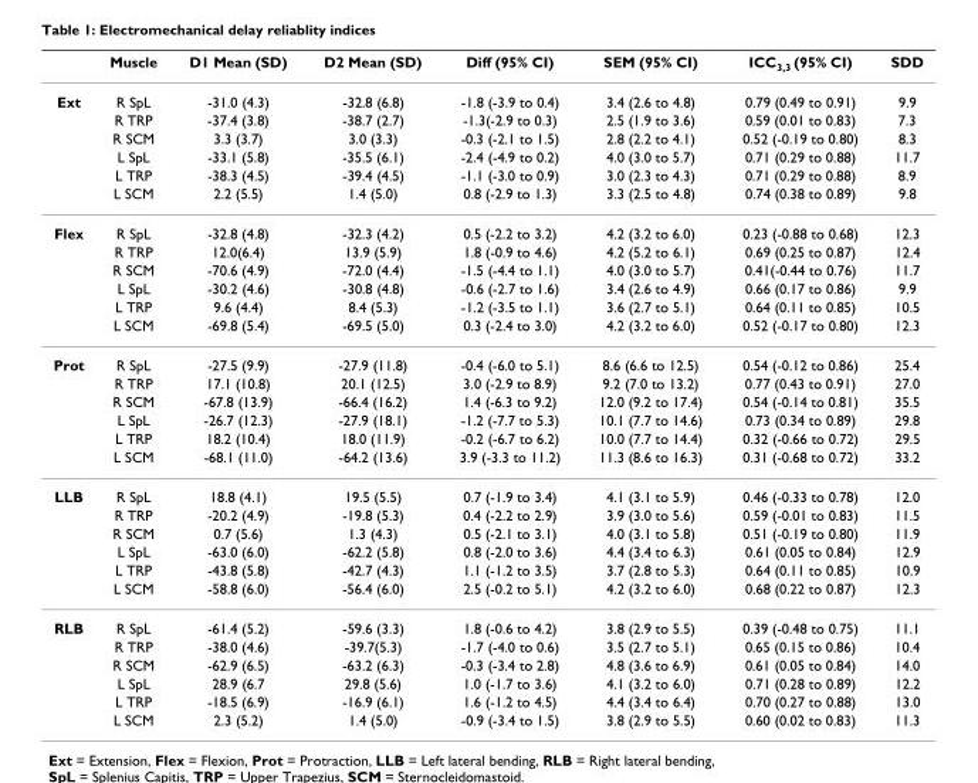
<table><thead><tr><td></td><td>Muscle</td><td>D1 Mean (SD)</td><td>D2 Mean (SD)</td><td>Diff (95% CI)</td><td>SEM (95% CI)</td><td>ICC<sub>3,3</sub> (95% CI)</td><td>SDD</td></tr></thead><tbody><tr><td rowspan="6">Ext</td><td>R SpL</td><td>-31.0 (4.3)</td><td>-32.8 (6.8)</td><td>-1.8 (-3.9 to 0.4)</td><td>3.4 (2.6 to 4.8)</td><td>0.79 (0.49 to 0.91)</td><td>9.9</td></tr><tr><td>R TRP</td><td>-37.4 (3.8)</td><td>-38.7 (2.7)</td><td>-1.3(-2.9 to 0.3)</td><td>2.5 (1.9 to 3.6)</td><td>0.59 (0.01 to 0.83)</td><td>7.3</td></tr><tr><td>R SCM</td><td>3.3 (3.7)</td><td>3.0 (3.3)</td><td>-0.3 (-2.1 to 1.5)</td><td>2.8 (2.2 to 4.1)</td><td>0.52 (-0.19 to 0.80)</td><td>8.3</td></tr><tr><td>L SpL</td><td>-33.1 (5.8)</td><td>-35.5 (6.1)</td><td>-2.4 (-4.9 to 0.2)</td><td>4.0 (3.0 to 5.7)</td><td>0.71 (0.29 to 0.88)</td><td>11.7</td></tr><tr><td>L TRP</td><td>-38.3 (4.5)</td><td>-39.4 (4.5)</td><td>-1.1 (-3.0 to 0.9)</td><td>3.0 (2.3 to 4.3)</td><td>0.71 (0.29 to 0.88)</td><td>8.9</td></tr><tr><td>L SCM</td><td>2.2 (5.5)</td><td>1.4 (5.0)</td><td>0.8 (-2.9 to 1.3)</td><td>3.3 (2.5 to 4.8)</td><td>0.74 (0.38 to 0.89)</td><td>9.8</td></tr><tr><td rowspan="6">Flex</td><td>R SpL</td><td>-32.8 (4.8)</td><td>-32.3 (4.2)</td><td>0.5 (-2.2 to 3.2)</td><td>4.2 (3.2 to 6.0)</td><td>0.23 (-0.88 to 0.68)</td><td>12.3</td></tr><tr><td>R TRP</td><td>12.0(6.4)</td><td>13.9 (5.9)</td><td>1.8 (-0.9 to 4.6)</td><td>4.2 (5.2 to 6.1)</td><td>0.69 (0.25 to 0.87)</td><td>12.4</td></tr><tr><td>R SCM</td><td>-70.6 (4.9)</td><td>-72.0 (4.4)</td><td>-1.5 (-4.4 to 1.1)</td><td>4.0 (3.0 to 5.7)</td><td>0.41(-0.44 to 0.76)</td><td>11.7</td></tr><tr><td>L SpL</td><td>-30.2 (4.6)</td><td>-30.8 (4.8)</td><td>-0.6 (-2.7 to 1.6)</td><td>3.4 (2.6 to 4.9)</td><td>0.66 (0.17 to 0.86)</td><td>9.9</td></tr><tr><td>L TRP</td><td>9.6 (4.4)</td><td>8.4 (5.3)</td><td>-1.2 (-3.5 to 1.1)</td><td>3.6 (2.7 to 5.1)</td><td>0.64 (0.11 to 0.85)</td><td>10.5</td></tr><tr><td>L SCM</td><td>-69.8 (5.4)</td><td>-69.5 (5.0)</td><td>0.3 (-2.4 to 3.0)</td><td>4.2 (3.2 to 6.0)</td><td>0.52 (-0.17 to 0.80)</td><td>12.3</td></tr><tr><td rowspan="6">Prot</td><td>R SpL</td><td>-27.5 (9.9)</td><td>-27.9 (11.8)</td><td>-0.4 (-6.0 to 5.1)</td><td>8.6 (6.6 to 12.5)</td><td>0.54 (-0.12 to 0.86)</td><td>25.4</td></tr><tr><td>R TRP</td><td>17.1 (10.8)</td><td>20.1 (12.5)</td><td>3.0 (-2.9 to 8.9)</td><td>9.2 (7.0 to 13.2)</td><td>0.77 (0.43 to 0.91)</td><td>27.0</td></tr><tr><td>R SCM</td><td>-67.8 (13.9)</td><td>-66.4 (16.2)</td><td>1.4 (-6.3 to 9.2)</td><td>12.0 (9.2 to 17.4)</td><td>0.54 (-0.14 to 0.81)</td><td>35.5</td></tr><tr><td>L SpL</td><td>-26.7 (12.3)</td><td>-27.9 (18.1)</td><td>-1.2 (-7.7 to 5.3)</td><td>10.1 (7.7 to 14.6)</td><td>0.73 (0.34 to 0.89)</td><td>29.8</td></tr><tr><td>L TRP</td><td>18.2 (10.4)</td><td>18.0 (11.9)</td><td>-0.2 (-6.7 to 6.2)</td><td>10.0 (7.7 to 14.4)</td><td>0.32 (-0.66 to 0.72)</td><td>29.5</td></tr><tr><td>L SCM</td><td>-68.1 (11.0)</td><td>-64.2 (13.6)</td><td>3.9 (-3.3 to 11.2)</td><td>11.3 (8.6 to 16.3)</td><td>0.31 (-0.68 to 0.72)</td><td>33.2</td></tr><tr><td rowspan="6">LLB</td><td>R SpL</td><td>18.8 (4.1)</td><td>19.5 (5.5)</td><td>0.7 (-1.9 to 3.4)</td><td>4.1 (3.1 to 5.9)</td><td>0.46 (-0.33 to 0.78)</td><td>12.0</td></tr><tr><td>R TRP</td><td>-20.2 (4.9)</td><td>-19.8 (5.3)</td><td>0.4 (-2.2 to 2.9)</td><td>3.9 (3.0 to 5.6)</td><td>0.59 (-0.01 to 0.83)</td><td>11.5</td></tr><tr><td>R SCM</td><td>0.7 (5.6)</td><td>1.3 (4.3)</td><td>0.5 (-2.1 to 3.1)</td><td>4.0 (3.1 to 5.8)</td><td>0.51 (-0.19 to 0.80)</td><td>11.9</td></tr><tr><td>L SpL</td><td>-63.0 (6.0)</td><td>-62.2 (5.8)</td><td>0.8 (-2.0 to 3.6)</td><td>4.4 (3.4 to 6.3)</td><td>0.61 (0.05 to 0.84)</td><td>12.9</td></tr><tr><td>L TRP</td><td>-43.8 (5.8)</td><td>-42.7 (4.3)</td><td>1.1 (-1.2 to 3.5)</td><td>3.7 (2.8 to 5.3)</td><td>0.64 (0.11 to 0.85)</td><td>10.9</td></tr><tr><td>L SCM</td><td>-58.8 (6.0)</td><td>-56.4 (6.0)</td><td>2.5 (-0.2 to 5.1)</td><td>4.2 (3.2 to 6.0)</td><td>0.68 (0.22 to 0.87)</td><td>12.3</td></tr><tr><td rowspan="6">RLB</td><td>R SpL</td><td>-61.4 (5.2)</td><td>-59.6 (3.3)</td><td>1.8 (-0.6 to 4.2)</td><td>3.8 (2.9 to 5.5)</td><td>0.39 (-0.48 to 0.75)</td><td>11.1</td></tr><tr><td>R TRP</td><td>-38.0 (4.6)</td><td>-39.7(5.3)</td><td>-1.7 (-4.0 to 0.6)</td><td>3.5 (2.7 to 5.1)</td><td>0.65 (0.15 to 0.86)</td><td>10.4</td></tr><tr><td>R SCM</td><td>-62.9 (6.5)</td><td>-63.2 (6.3)</td><td>-0.3 (-3.4 to 2.8)</td><td>4.8 (3.6 to 6.9)</td><td>0.61 (0.05 to 0.84)</td><td>14.0</td></tr><tr><td>L SpL</td><td>28.9 (6.7</td><td>29.8 (5.6)</td><td>1.0 (-1.7 to 3.6)</td><td>4.1 (3.2 to 6.0)</td><td>0.71 (0.28 to 0.89)</td><td>12.2</td></tr><tr><td>L TRP</td><td>-18.5 (6.9)</td><td>-16.9 (6.1)</td><td>1.6 (-1.2 to 4.5)</td><td>4.4 (3.4 to 6.4)</td><td>0.70 (0.27 to 0.88)</td><td>13.0</td></tr><tr><td>L SCM</td><td>2.3 (5.2)</td><td>1.4 (5.0)</td><td>-0.9 (-3.4 to 1.5)</td><td>3.8 (2.9 to 5.5)</td><td>0.60 (0.02 to 0.83)</td><td>11.3</td></tr></tbody></table>